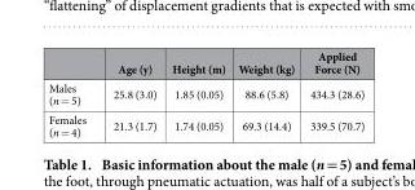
<table><thead><tr><td></td><td>Age (y)</td><td>Height (m)</td><td>Weight (kg)</td><td>Applied Force (N)</td></tr></thead><tbody><tr><td>Males (n = 5)</td><td>25.8 (3.0)</td><td>1.85 (0.05)</td><td>88.6 (5.8)</td><td>434.3 (28.6)</td></tr><tr><td>Females (n = 4)</td><td>21.3 (1.7)</td><td>1.74 (0.05)</td><td>69.3 (14.4)</td><td>339.5 (70.7)</td></tr></tbody></table>